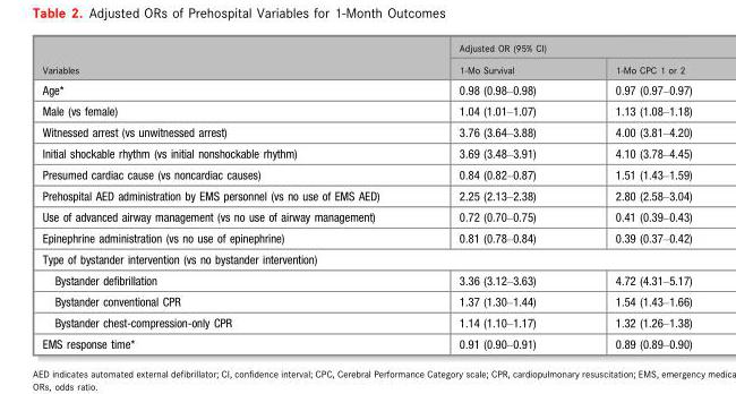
<table><thead><tr><td rowspan="2">Variables</td><td colspan="2">Adjusted OR (95% CI)</td></tr><tr><td>1-Mo Survival</td><td>1-Mo CPC 1 or 2</td></tr></thead><tbody><tr><td>Age*</td><td>0.98 (0.98–0.98)</td><td>0.97 (0.97–0.97)</td></tr><tr><td>Male (vs female)</td><td>1.04 (1.01–1.07)</td><td>1.13 (1.08–1.18)</td></tr><tr><td>Witnessed arrest (vs unwitnessed arrest)</td><td>3.76 (3.64–3.88)</td><td>4.00 (3.81–4.20)</td></tr><tr><td>Initial shockable rhythm (vs initial nonshockable rhythm)</td><td>3.69 (3.48–3.91)</td><td>4.10 (3.78–4.45)</td></tr><tr><td>Presumed cardiac cause (vs noncardiac causes)</td><td>0.84 (0.82–0.87)</td><td>1.51 (1.43–1.59)</td></tr><tr><td>Prehospital AED administration by EMS personnel (vs no use of EMS AED)</td><td>2.25 (2.13–2.38)</td><td>2.80 (2.58–3.04)</td></tr><tr><td>Use of advanced airway management (vs no use of airway management)</td><td>0.72 (0.70–0.75)</td><td>0.41 (0.39–0.43)</td></tr><tr><td>Epinephrine administration (vs no use of epinephrine)</td><td>0.81 (0.78–0.84)</td><td>0.39 (0.37–0.42)</td></tr><tr><td colspan="3">Type of bystander intervention (vs no bystander intervention)</td></tr><tr><td>Bystander defibrillation</td><td>3.36 (3.12–3.63)</td><td>4.72 (4.31–5.17)</td></tr><tr><td>Bystander conventional CPR</td><td>1.37 (1.30–1.44)</td><td>1.54 (1.43–1.66)</td></tr><tr><td>Bystander chest-compression-only CPR</td><td>1.14 (1.10–1.17)</td><td>1.32 (1.26–1.38)</td></tr><tr><td>EMS response time*</td><td>0.91 (0.90–0.91)</td><td>0.89 (0.89–0.90)</td></tr></tbody></table>